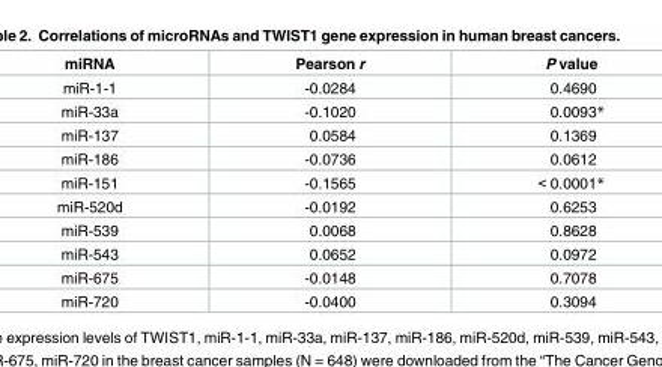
<table><thead><tr><td>miRNA</td><td>Pearson r</td><td>P value</td></tr></thead><tbody><tr><td>miR-1-1</td><td>-0.0284</td><td>0.4690</td></tr><tr><td>miR-33a</td><td>-0.1020</td><td>0.0093*</td></tr><tr><td>miR-137</td><td>0.0584</td><td>0.1369</td></tr><tr><td>miR-186</td><td>-0.0736</td><td>0.0612</td></tr><tr><td>miR-151</td><td>-0.1565</td><td>&lt; 0.0001*</td></tr><tr><td>miR-520d</td><td>-0.0192</td><td>0.6253</td></tr><tr><td>miR-539</td><td>0.0068</td><td>0.8628</td></tr><tr><td>miR-543</td><td>0.0652</td><td>0.0972</td></tr><tr><td>miR-675</td><td>-0.0148</td><td>0.7078</td></tr><tr><td>miR-720</td><td>-0.0400</td><td>0.3094</td></tr></tbody></table>